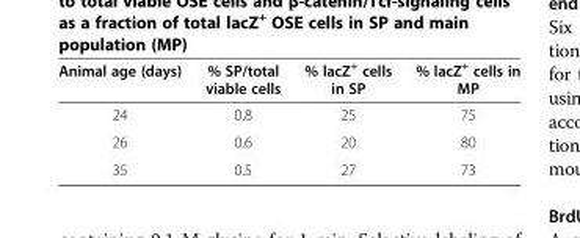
<table><thead><tr><td>Animal age (days)</td><td>% SP/total viable cells</td><td>% lacZ<sup>+</sup> cells in SP</td><td>% lacZ<sup>+</sup> cells in MP</td></tr></thead><tbody><tr><td>24</td><td>0.8</td><td>25</td><td>75</td></tr><tr><td>26</td><td>0.6</td><td>20</td><td>80</td></tr><tr><td>35</td><td>0.5</td><td>27</td><td>73</td></tr></tbody></table>